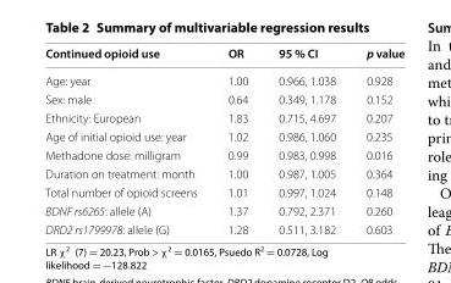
<table><thead><tr><td>Continued opioid use</td><td>OR</td><td>95 % CI</td><td>p value</td></tr></thead><tbody><tr><td>Age: year</td><td>1.00</td><td>0.966, 1.038</td><td>0.928</td></tr><tr><td>Sex: male</td><td>0.64</td><td>0.349, 1.178</td><td>0.152</td></tr><tr><td>Ethnicity: European</td><td>1.83</td><td>0.715, 4.697</td><td>0.207</td></tr><tr><td>Age of initial opioid use: year</td><td>1.02</td><td>0.986, 1.060</td><td>0.235</td></tr><tr><td>Methadone dose: milligram</td><td>0.99</td><td>0.983, 0.998</td><td>0.016</td></tr><tr><td>Duration on treatment: month</td><td>1.00</td><td>0.987, 1.005</td><td>0.364</td></tr><tr><td>Total number of opioid screens</td><td>1.01</td><td>0.997, 1.024</td><td>0.148</td></tr><tr><td>BDNF rs6265: allele (A)</td><td>1.37</td><td>0.792, 2.371</td><td>0.260</td></tr><tr><td>DRD2 rs1799978: allele (G)</td><td>1.28</td><td>0.511, 3.182</td><td>0.603</td></tr></tbody></table>